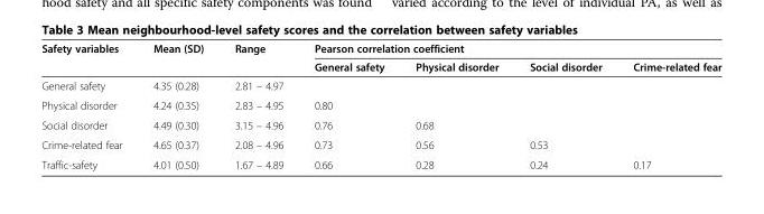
<table><thead><tr><td rowspan="2">Safety variables</td><td rowspan="2">Mean (SD)</td><td rowspan="2">Range</td><td colspan="4">Pearson correlation coefficient</td></tr><tr><td>General safety</td><td>Physical disorder</td><td>Social disorder</td><td>Crime-related fear</td></tr></thead><tbody><tr><td>General safety</td><td>4.35 (0.28)</td><td>2.81 – 4.97</td><td></td><td></td><td></td><td></td></tr><tr><td>Physical disorder</td><td>4.24 (0.35)</td><td>2.83 – 4.95</td><td>0.80</td><td></td><td></td><td></td></tr><tr><td>Social disorder</td><td>4.49 (0.30)</td><td>3.15 – 4.96</td><td>0.76</td><td>0.68</td><td></td><td></td></tr><tr><td>Crime-related fear</td><td>4.65 (0.37)</td><td>2.08 – 4.96</td><td>0.73</td><td>0.56</td><td>0.53</td><td></td></tr><tr><td>Traffic-safety</td><td>4.01 (0.50)</td><td>1.67 – 4.89</td><td>0.66</td><td>0.28</td><td>0.24</td><td>0.17</td></tr></tbody></table>